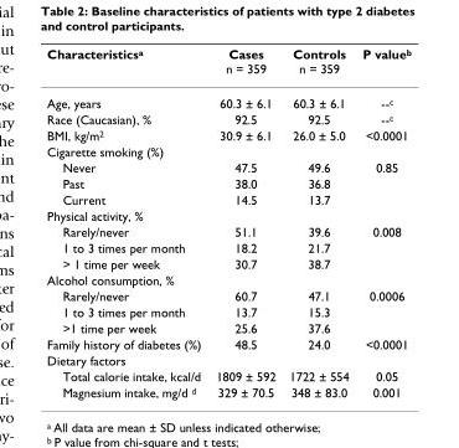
<table><thead><tr><td>Characteristics<sup>a</sup></td><td>Cases n = 359</td><td>Controls n = 359</td><td>P value<sup>b</sup></td></tr></thead><tbody><tr><td>Age, years</td><td>60.3 ± 6.1</td><td>60.3 ± 6.1</td><td>--<sup>c</sup></td></tr><tr><td>Race (Caucasian), %</td><td>92.5</td><td>92.5</td><td>--<sup>c</sup></td></tr><tr><td>BMI, kg/m<sup>2</sup></td><td>30.9 ± 6.1</td><td>26.0 ± 5.0</td><td>&lt;0.0001</td></tr><tr><td colspan="4">Cigarette smoking (%)</td></tr><tr><td>Never</td><td>47.5</td><td>49.6</td><td>0.85</td></tr><tr><td>Past</td><td>38.0</td><td>36.8</td><td></td></tr><tr><td>Current</td><td>14.5</td><td>13.7</td><td></td></tr><tr><td colspan="4">Physical activity, %</td></tr><tr><td>Rarely/never</td><td>51.1</td><td>39.6</td><td>0.008</td></tr><tr><td>1 to 3 times per month</td><td>18.2</td><td>21.7</td><td></td></tr><tr><td>&gt; 1 time per week</td><td>30.7</td><td>38.7</td><td></td></tr><tr><td colspan="4">Alcohol consumption, %</td></tr><tr><td>Rarely/never</td><td>60.7</td><td>47.1</td><td>0.0006</td></tr><tr><td>1 to 3 times per month</td><td>13.7</td><td>15.3</td><td></td></tr><tr><td>&gt;1 time per week</td><td>25.6</td><td>37.6</td><td></td></tr><tr><td>Family history of diabetes (%)</td><td>48.5</td><td>24.0</td><td>&lt;0.0001</td></tr><tr><td colspan="4">Dietary factors</td></tr><tr><td>Total calorie intake, kcal/d</td><td>1809 ± 592</td><td>1722 ± 554</td><td>0.05</td></tr><tr><td>Magnesium intake, mg/d <sup>d</sup></td><td>329 ± 70.5</td><td>348 ± 83.0</td><td>0.001</td></tr></tbody></table>